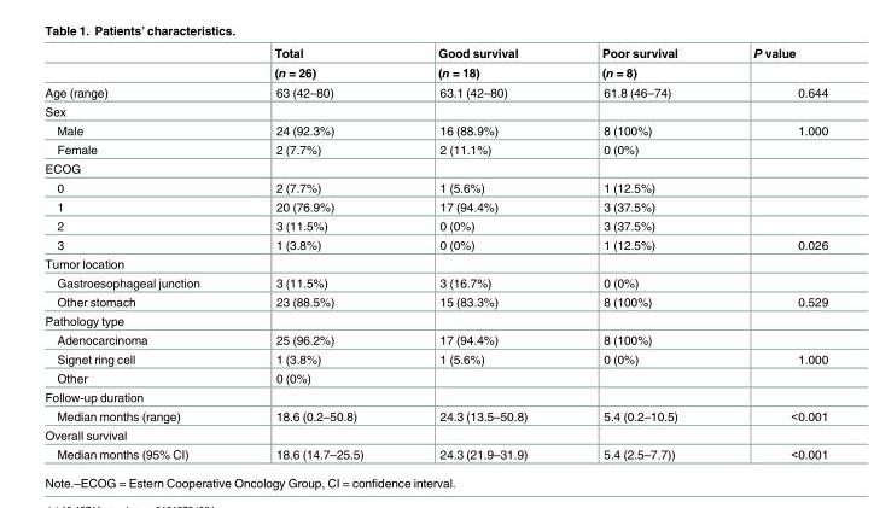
<table><thead><tr><td rowspan="2"></td><td rowspan="2">Total (n = 26)</td><td rowspan="2">Good survival (n = 18)</td><td rowspan="2">Poor survival (n = 8)</td><td rowspan="2">P value</td></tr><tr></tr></thead><tbody><tr><td>Age (range)</td><td>63 (42–80)</td><td>63.1 (42–80)</td><td>61.8 (46–74)</td><td>0.644</td></tr><tr><td colspan="5">Sex</td></tr><tr><td>Male</td><td>24 (92.3%)</td><td>16 (88.9%)</td><td>8 (100%)</td><td>1.000</td></tr><tr><td>Female</td><td>2 (7.7%)</td><td>2 (11.1%)</td><td>0 (0%)</td><td></td></tr><tr><td colspan="5">ECOG</td></tr><tr><td>0</td><td>2 (7.7%)</td><td>1 (5.6%)</td><td>1 (12.5%)</td><td></td></tr><tr><td>1</td><td>20 (76.9%)</td><td>17 (94.4%)</td><td>3 (37.5%)</td><td></td></tr><tr><td>2</td><td>3 (11.5%)</td><td>0 (0%)</td><td>3 (37.5%)</td><td></td></tr><tr><td>3</td><td>1 (3.8%)</td><td>0 (0%)</td><td>1 (12.5%)</td><td>0.026</td></tr><tr><td colspan="5">Tumor location</td></tr><tr><td>Gastroesophageal junction</td><td>3 (11.5%)</td><td>3 (16.7%)</td><td>0 (0%)</td><td></td></tr><tr><td>Other stomach</td><td>23 (88.5%)</td><td>15 (83.3%)</td><td>8 (100%)</td><td>0.529</td></tr><tr><td colspan="5">Pathology type</td></tr><tr><td>Adenocarcinoma</td><td>25 (96.2%)</td><td>17 (94.4%)</td><td>8 (100%)</td><td></td></tr><tr><td>Signet ring cell</td><td>1 (3.8%)</td><td>1 (5.6%)</td><td>0 (0%)</td><td>1.000</td></tr><tr><td>Other</td><td>0 (0%)</td><td></td><td></td><td></td></tr><tr><td colspan="5">Follow-up duration</td></tr><tr><td>Median months (range)</td><td>18.6 (0.2–50.8)</td><td>24.3 (13.5–50.8)</td><td>5.4 (0.2–10.5)</td><td>&lt;0.001</td></tr><tr><td colspan="5">Overall survival</td></tr><tr><td>Median months (95% CI)</td><td>18.6 (14.7–25.5)</td><td>24.3 (21.9–31.9)</td><td>5.4 (2.5–7.7))</td><td>&lt;0.001</td></tr></tbody></table>